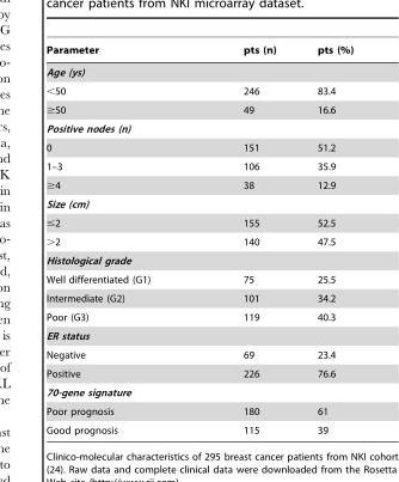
<table><thead><tr><td>Parameter</td><td>pts (n)</td><td>pts (%)</td></tr></thead><tbody><tr><td colspan="3">Age (ys)</td></tr><tr><td>&lt;50</td><td>246</td><td>83.4</td></tr><tr><td>≥50</td><td>49</td><td>16.6</td></tr><tr><td colspan="3">Positive nodes (n)</td></tr><tr><td>0</td><td>151</td><td>51.2</td></tr><tr><td>1–3</td><td>106</td><td>35.9</td></tr><tr><td>≥4</td><td>38</td><td>12.9</td></tr><tr><td colspan="3">Size (cm)</td></tr><tr><td>≤2</td><td>155</td><td>52.5</td></tr><tr><td>&gt;2</td><td>140</td><td>47.5</td></tr><tr><td colspan="3">Histological grade</td></tr><tr><td>Well differentiated (G1)</td><td>75</td><td>25.5</td></tr><tr><td>Intermediate (G2)</td><td>101</td><td>34.2</td></tr><tr><td>Poor (G3)</td><td>119</td><td>40.3</td></tr><tr><td colspan="3">ER status</td></tr><tr><td>Negative</td><td>69</td><td>23.4</td></tr><tr><td>Positive</td><td>226</td><td>76.6</td></tr><tr><td colspan="3">70-gene signature</td></tr><tr><td>Poor prognosis</td><td>180</td><td>61</td></tr><tr><td>Good prognosis</td><td>115</td><td>39</td></tr></tbody></table>